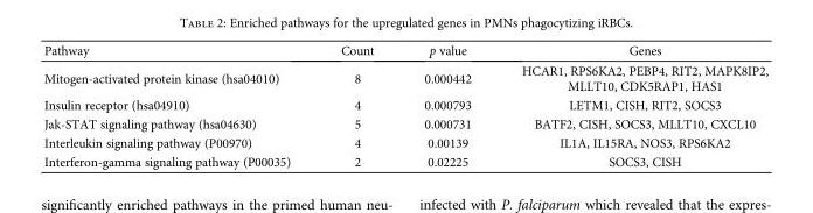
<table><thead><tr><td>Pathway</td><td>Count</td><td>p value</td><td>Genes</td></tr></thead><tbody><tr><td>Mitogen-activated protein kinase (hsa04010)</td><td>8</td><td>0.000442</td><td>HCAR1, RPS6KA2, PEBP4, RIT2, MAPK8IP2, MLLT10, CDK5RAP1, HAS1</td></tr><tr><td>Insulin receptor (hsa04910)</td><td>4</td><td>0.000793</td><td>LETM1, CISH, RIT2, SOCS3</td></tr><tr><td>Jak-STAT signaling pathway (hsa04630)</td><td>5</td><td>0.000731</td><td>BATF2, CISH, SOCS3, MLLT10, CXCL10</td></tr><tr><td>Interleukin signaling pathway (P00970)</td><td>4</td><td>0.00139</td><td>IL1A, IL15RA, NOS3, RPS6KA2</td></tr><tr><td>Interferon-gamma signaling pathway (P00035)</td><td>2</td><td>0.02225</td><td>SOCS3, CISH</td></tr></tbody></table>